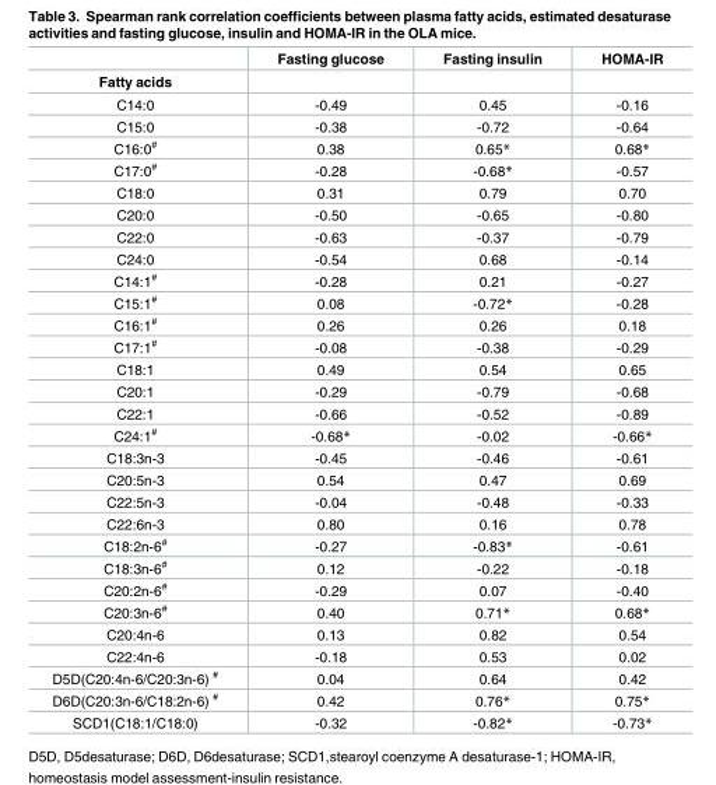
<table><thead><tr><td rowspan="2">Fatty acids</td><td rowspan="2">Fasting glucose</td><td rowspan="2">Fasting insulin</td><td rowspan="2">HOMA-IR</td></tr><tr></tr></thead><tbody><tr><td>C14:0</td><td>-0.49</td><td>0.45</td><td>-0.16</td></tr><tr><td>C15:0</td><td>-0.38</td><td>-0.72</td><td>-0.64</td></tr><tr><td>C16:0<sup>#</sup></td><td>0.38</td><td>0.65*</td><td>0.68*</td></tr><tr><td>C17:0<sup>#</sup></td><td>-0.28</td><td>-0.68*</td><td>-0.57</td></tr><tr><td>C18:0</td><td>0.31</td><td>0.79</td><td>0.70</td></tr><tr><td>C20:0</td><td>-0.50</td><td>-0.65</td><td>-0.80</td></tr><tr><td>C22:0</td><td>-0.63</td><td>-0.37</td><td>-0.79</td></tr><tr><td>C24:0</td><td>-0.54</td><td>0.68</td><td>-0.14</td></tr><tr><td>C14:1<sup>#</sup></td><td>-0.28</td><td>0.21</td><td>-0.27</td></tr><tr><td>C15:1<sup>#</sup></td><td>0.08</td><td>-0.72*</td><td>-0.28</td></tr><tr><td>C16:1<sup>#</sup></td><td>0.26</td><td>0.26</td><td>0.18</td></tr><tr><td>C17:1<sup>#</sup></td><td>-0.08</td><td>-0.38</td><td>-0.29</td></tr><tr><td>C18:1</td><td>0.49</td><td>0.54</td><td>0.65</td></tr><tr><td>C20:1</td><td>-0.29</td><td>-0.79</td><td>-0.68</td></tr><tr><td>C22:1</td><td>-0.66</td><td>-0.52</td><td>-0.89</td></tr><tr><td>C24:1<sup>#</sup></td><td>-0.68*</td><td>-0.02</td><td>-0.66*</td></tr><tr><td>C18:3n-3</td><td>-0.45</td><td>-0.46</td><td>-0.61</td></tr><tr><td>C20:5n-3</td><td>0.54</td><td>0.47</td><td>0.69</td></tr><tr><td>C22:5n-3</td><td>-0.04</td><td>-0.48</td><td>-0.33</td></tr><tr><td>C22:6n-3</td><td>0.80</td><td>0.16</td><td>0.78</td></tr><tr><td>C18:2n-6<sup>#</sup></td><td>-0.27</td><td>-0.83*</td><td>-0.61</td></tr><tr><td>C18:3n-6<sup>#</sup></td><td>0.12</td><td>-0.22</td><td>-0.18</td></tr><tr><td>C20:2n-6<sup>#</sup></td><td>-0.29</td><td>0.07</td><td>-0.40</td></tr><tr><td>C20:3n-6<sup>#</sup></td><td>0.40</td><td>0.71*</td><td>0.68*</td></tr><tr><td>C20:4n-6</td><td>0.13</td><td>0.82</td><td>0.54</td></tr><tr><td>C22:4n-6</td><td>-0.18</td><td>0.53</td><td>0.02</td></tr><tr><td>D5D(C20:4n-6/C20:3n-6) <sup>#</sup></td><td>0.04</td><td>0.64</td><td>0.42</td></tr><tr><td>D6D(C20:3n-6/C18:2n-6) <sup>#</sup></td><td>0.42</td><td>0.76*</td><td>0.75*</td></tr><tr><td>SCD1(C18:1/C18:0)</td><td>-0.32</td><td>-0.82*</td><td>-0.73*</td></tr></tbody></table>